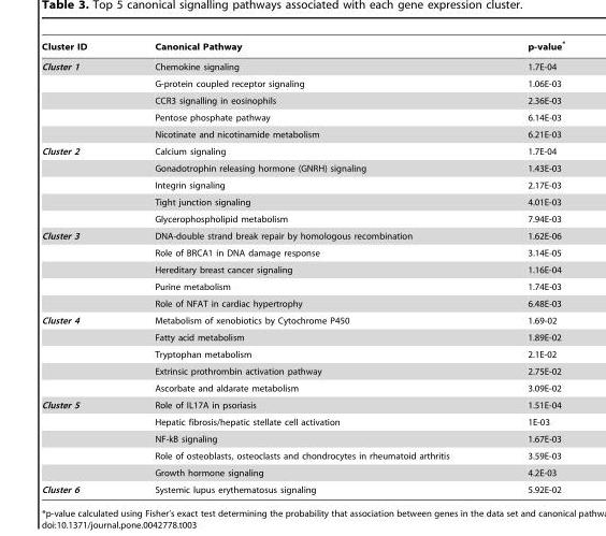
<table><thead><tr><td>Cluster ID</td><td>Canonical Pathway</td><td>p-value*</td></tr></thead><tbody><tr><td rowspan="5">Cluster 1</td><td>Chemokine signaling</td><td>1.7E-04</td></tr><tr><td>G-protein coupled receptor signaling</td><td>1.06E-03</td></tr><tr><td>CCR3 signalling in eosinophils</td><td>2.36E-03</td></tr><tr><td>Pentose phosphate pathway</td><td>6.14E-03</td></tr><tr><td>Nicotinate and nicotinamide metabolism</td><td>6.21E-03</td></tr><tr><td rowspan="5">Cluster 2</td><td>Calcium signaling</td><td>1.7E-04</td></tr><tr><td>Gonadotrophin releasing hormone (GNRH) signaling</td><td>1.43E-03</td></tr><tr><td>Integrin signaling</td><td>2.17E-03</td></tr><tr><td>Tight junction signaling</td><td>4.01E-03</td></tr><tr><td>Glycerophospholipid metabolism</td><td>7.94E-03</td></tr><tr><td rowspan="5">Cluster 3</td><td>DNA-double strand break repair by homologous recombination</td><td>1.62E-06</td></tr><tr><td>Role of BRCA1 in DNA damage response</td><td>3.14E-05</td></tr><tr><td>Hereditary breast cancer signaling</td><td>1.16E-04</td></tr><tr><td>Purine metabolism</td><td>1.74E-03</td></tr><tr><td>Role of NFAT in cardiac hypertrophy</td><td>6.48E-03</td></tr><tr><td rowspan="5">Cluster 4</td><td>Metabolism of xenobiotics by Cytochrome P450</td><td>1.69-02</td></tr><tr><td>Fatty acid metabolism</td><td>1.89E-02</td></tr><tr><td>Tryptophan metabolism</td><td>2.1E-02</td></tr><tr><td>Extrinsic prothrombin activation pathway</td><td>2.75E-02</td></tr><tr><td>Ascorbate and aldarate metabolism</td><td>3.09E-02</td></tr><tr><td rowspan="5">Cluster 5</td><td>Role of IL17A in psoriasis</td><td>1.51E-04</td></tr><tr><td>Hepatic fibrosis/hepatic stellate cell activation</td><td>1E-03</td></tr><tr><td>NF-kB signaling</td><td>1.67E-03</td></tr><tr><td>Role of osteoblasts, osteoclasts and chondrocytes in rheumatoid arthritis</td><td>3.59E-03</td></tr><tr><td>Growth hormone signaling</td><td>4.2E-03</td></tr><tr><td>Cluster 6</td><td>Systemic lupus erythematosus signaling</td><td>5.92E-02</td></tr></tbody></table>